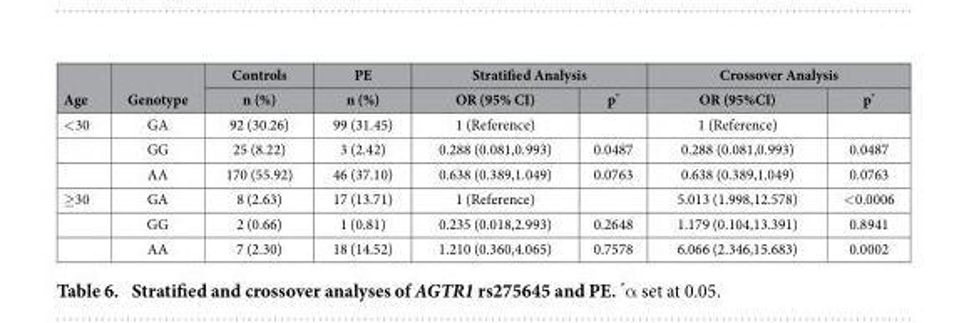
<table><thead><tr><td rowspan="2">Age</td><td rowspan="2">Genotype</td><td rowspan="2">Controls n (%)</td><td rowspan="2">PE n (%)</td><td colspan="2">Stratified Analysis</td><td colspan="2">Crossover Analysis</td></tr><tr><td>OR (95% CI)</td><td>p*</td><td>OR (95%CI)</td><td>p*</td></tr></thead><tbody><tr><td rowspan="3">&lt; 30</td><td>GA</td><td>92 (30.26)</td><td>99 (31.45)</td><td>1 (Reference)</td><td></td><td>1 (Reference)</td><td></td></tr><tr><td>GG</td><td>25 (8.22)</td><td>3 (2.42)</td><td>0.288 (0.081,0.993)</td><td>0.0487</td><td>0.288 (0.081,0.993)</td><td>0.0487</td></tr><tr><td>AA</td><td>170 (55.92)</td><td>46 (37.10)</td><td>0.638 (0.389,1.049)</td><td>0.0763</td><td>0.638 (0.389,1.049)</td><td>0.0763</td></tr><tr><td rowspan="3">≥ 30</td><td>GA</td><td>8 (2.63)</td><td>17 (13.71)</td><td>1 (Reference)</td><td></td><td>5.013 (1.998,12.578)</td><td>&lt; 0.0006</td></tr><tr><td>GG</td><td>2 (0.66)</td><td>1 (0.81)</td><td>0.235 (0.018,2.993)</td><td>0.2648</td><td>1.179 (0.104,13.391)</td><td>0.8941</td></tr><tr><td>AA</td><td>7 (2.30)</td><td>18 (14.52)</td><td>1.210 (0.360,4.065)</td><td>0.7578</td><td>6.066 (2.346,15.683)</td><td>0.0002</td></tr></tbody></table>